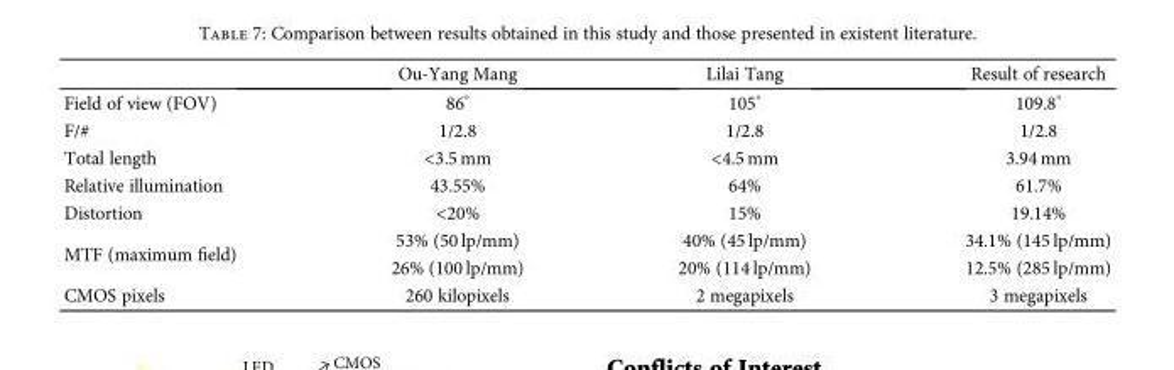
<table><thead><tr><td></td><td>Ou-Yang Mang</td><td>Lilai Tang</td><td>Result of research</td></tr></thead><tbody><tr><td>Field of view (FOV)</td><td>86°</td><td>105°</td><td>109.8°</td></tr><tr><td>F/#</td><td>1/2.8</td><td>1/2.8</td><td>1/2.8</td></tr><tr><td>Total length</td><td>&lt;3.5 mm</td><td>&lt;4.5 mm</td><td>3.94 mm</td></tr><tr><td>Relative illumination</td><td>43.55%</td><td>64%</td><td>61.7%</td></tr><tr><td>Distortion</td><td>&lt;20%</td><td>15%</td><td>19.14%</td></tr><tr><td rowspan="2">MTF (maximum field)</td><td>53% (50 lp/mm)</td><td>40% (45 lp/mm)</td><td>34.1% (145 lp/mm)</td></tr><tr><td>26% (100 lp/mm)</td><td>20% (114 lp/mm)</td><td>12.5% (285 lp/mm)</td></tr><tr><td>CMOS pixels</td><td>260 kilopixels</td><td>2 megapixels</td><td>3 megapixels</td></tr></tbody></table>